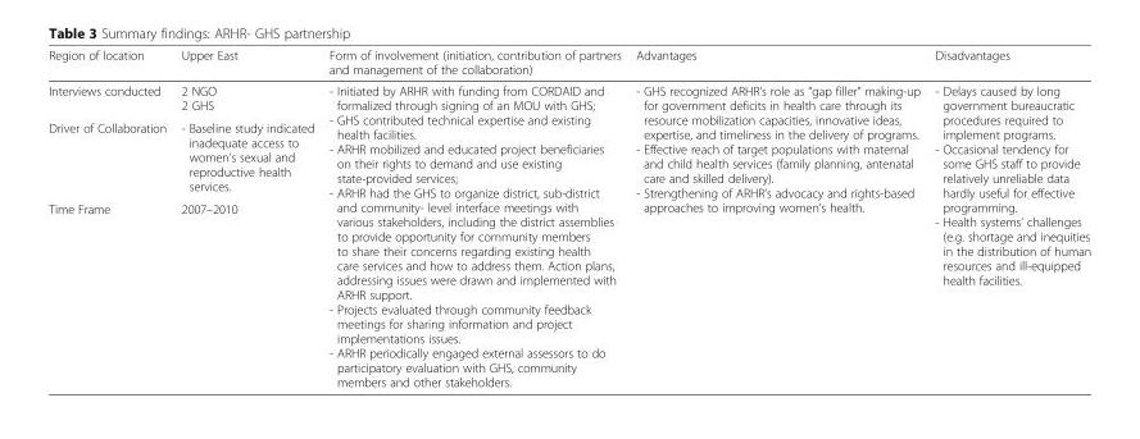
<table><thead><tr><td>Region of location</td><td>Upper East</td><td>Form of involvement (initiation, contribution of partners and management of the collaboration)</td><td>Advantages</td><td>Disadvantages</td></tr></thead><tbody><tr><td>Interviews conducted</td><td>2 NGO 2 GHS</td><td rowspan="3">- Initiated by ARHR with funding from CORDAID and formalized through signing of an MOU with GHS; - GHS contributed technical expertise and existing health facilities. - ARHR mobilized and educated project beneficiaries on their rights to demand and use existing state-provided services; - ARHR had the GHS to organize district, sub-district and community- level interface meetings with various stakeholders, including the district assemblies to provide opportunity for community members to share their concerns regarding existing health care services and how to address them. Action plans, addressing issues were drawn and implemented with ARHR support. - Projects evaluated through community feedback meetings for sharing information and project implementations issues. - ARHR periodically engaged external assessors to do participatory evaluation with GHS, community members and other stakeholders.</td><td rowspan="3">- GHS recognized ARHR’s role as “gap filler” making-up for government deficits in health care through its resource mobilization capacities, innovative ideas, expertise, and timeliness in the delivery of programs. - Effective reach of target populations with maternal and child health services (family planning, antenatal care and skilled delivery). - Strengthening of ARHR’s advocacy and rights-based approaches to improving women’s health.</td><td rowspan="3">- Delays caused by long government bureaucratic procedures required to implement programs. - Occasional tendency for some GHS staff to provide relatively unreliable data hardly useful for effective programming. - Health systems’ challenges (e.g. shortage and inequities in the distribution of human resources and ill-equipped health facilities.</td></tr><tr><td>Driver of Collaboration</td><td>- Baseline study indicated inadequate access to women’s sexual and reproductive health services.</td></tr><tr><td>Time Frame</td><td>2007–2010</td></tr></tbody></table>